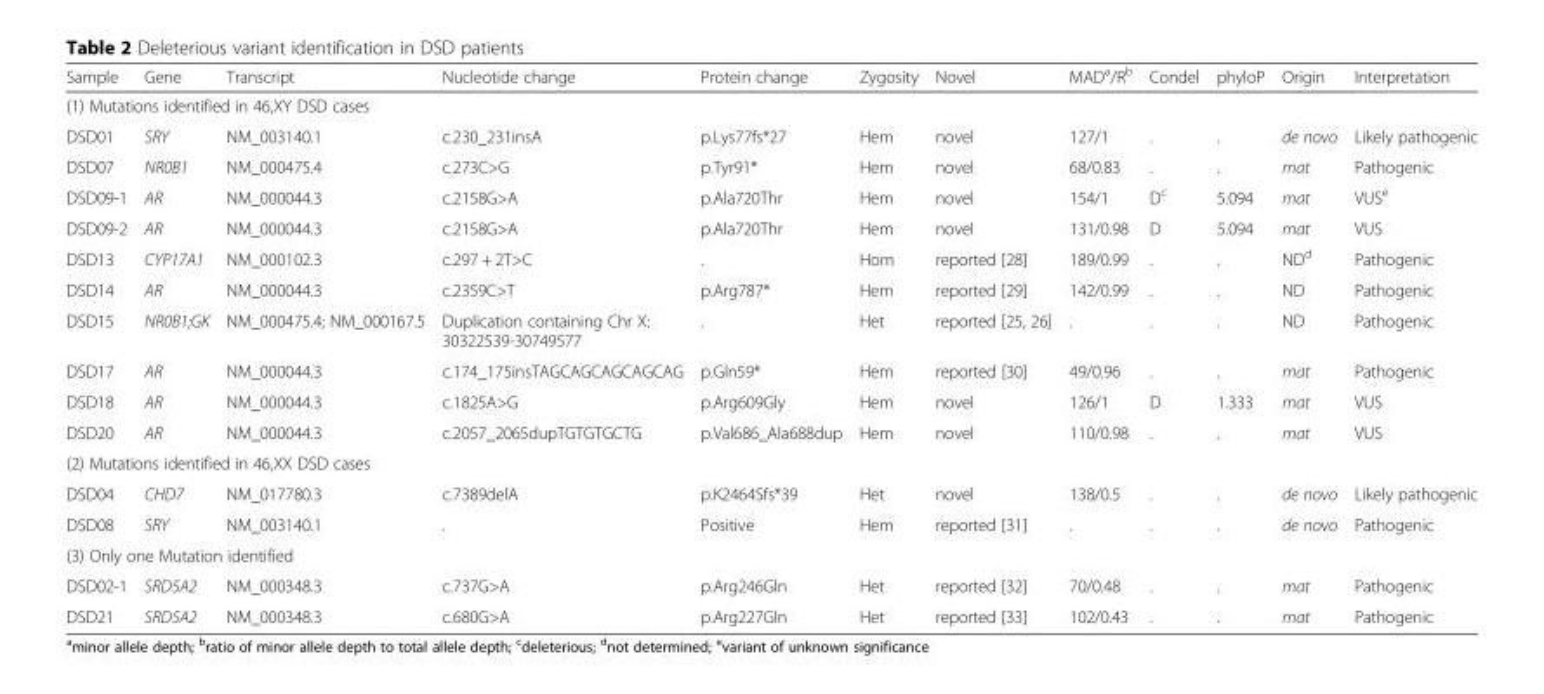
<table><thead><tr><td>Sample</td><td>Gene</td><td>Transcript</td><td>Nucleotide change</td><td>Protein change</td><td>Zygosity</td><td>Novel</td><td>MAD<sup>a</sup>/R<sup>b</sup></td><td>Condel</td><td>phyloP</td><td>Origin</td><td>Interpretation</td></tr></thead><tbody><tr><td colspan="12">(1) Mutations identified in 46,XY DSD cases</td></tr><tr><td>DSD01</td><td>SRY</td><td>NM_003140.1</td><td>c.230_231insA</td><td>p.Lys77fs*27</td><td>Hem</td><td>novel</td><td>127/1</td><td>.</td><td>.</td><td>de novo</td><td>Likely pathogenic</td></tr><tr><td>DSD07</td><td>NR0B1</td><td>NM_000475.4</td><td>c.273C&gt;G</td><td>p.Tyr91*</td><td>Hem</td><td>novel</td><td>68/0.83</td><td>.</td><td>.</td><td>mat</td><td>Pathogenic</td></tr><tr><td>DSD09-1</td><td>AR</td><td>NM_000044.3</td><td>c.2158G&gt;A</td><td>p.Ala720Thr</td><td>Hem</td><td>novel</td><td>154/1</td><td>D<sup>c</sup></td><td>5.094</td><td>mat</td><td>VUS<sup>e</sup></td></tr><tr><td>DSD09-2</td><td>AR</td><td>NM_000044.3</td><td>c.2158G&gt;A</td><td>p.Ala720Thr</td><td>Hem</td><td>novel</td><td>131/0.98</td><td>D</td><td>5.094</td><td>mat</td><td>VUS</td></tr><tr><td>DSD13</td><td>CYP17A1</td><td>NM_000102.3</td><td>c.297 + 2T&gt;C</td><td>.</td><td>Hom</td><td>reported [28]</td><td>189/0.99</td><td>.</td><td>.</td><td>ND<sup>d</sup></td><td>Pathogenic</td></tr><tr><td>DSD14</td><td>AR</td><td>NM_000044.3</td><td>c.2359C&gt;T</td><td>p.Arg787*</td><td>Hem</td><td>reported [29]</td><td>142/0.99</td><td>.</td><td>.</td><td>ND</td><td>Pathogenic</td></tr><tr><td>DSD15</td><td>NR0B1;GK</td><td>NM_000475.4; NM_000167.5</td><td>Duplication containing Chr X: 30322539-30749577</td><td>.</td><td>Het</td><td>reported [25, 26]</td><td>.</td><td>.</td><td>.</td><td>ND</td><td>Pathogenic</td></tr><tr><td>DSD17</td><td>AR</td><td>NM_000044.3</td><td>c.174_175insTAGCAGCAGCAGCAG</td><td>p.Gln59*</td><td>Hem</td><td>reported [30]</td><td>49/0.96</td><td>.</td><td>.</td><td>mat</td><td>Pathogenic</td></tr><tr><td>DSD18</td><td>AR</td><td>NM_000044.3</td><td>c.1825A&gt;G</td><td>p.Arg609Gly</td><td>Hem</td><td>novel</td><td>126/1</td><td>D</td><td>1.333</td><td>mat</td><td>VUS</td></tr><tr><td>DSD20</td><td>AR</td><td>NM_000044.3</td><td>c.2057_2065dupTGTGTGCTG</td><td>p.Val686_Ala688dup</td><td>Hem</td><td>novel</td><td>110/0.98</td><td>.</td><td>.</td><td>mat</td><td>VUS</td></tr><tr><td colspan="12">(2) Mutations identified in 46,XX DSD cases</td></tr><tr><td>DSD04</td><td>CHD7</td><td>NM_017780.3</td><td>c.7389delA</td><td>p.K2464Sfs*39</td><td>Het</td><td>novel</td><td>138/0.5</td><td>.</td><td>.</td><td>de novo</td><td>Likely pathogenic</td></tr><tr><td>DSD08</td><td>SRY</td><td>NM_003140.1</td><td>.</td><td>Positive</td><td>Hem</td><td>reported [31]</td><td>.</td><td>.</td><td>.</td><td>de novo</td><td>Pathogenic</td></tr><tr><td colspan="12">(3) Only one Mutation identified</td></tr><tr><td>DSD02-1</td><td>SRD5A2</td><td>NM_000348.3</td><td>c.737G&gt;A</td><td>p.Arg246Gln</td><td>Het</td><td>reported [32]</td><td>70/0.48</td><td>.</td><td>.</td><td>mat</td><td>Pathogenic</td></tr><tr><td>DSD21</td><td>SRD5A2</td><td>NM_000348.3</td><td>c.680G&gt;A</td><td>p.Arg227Gln</td><td>Het</td><td>reported [33]</td><td>102/0.43</td><td>.</td><td>.</td><td>mat</td><td>Pathogenic</td></tr></tbody></table>